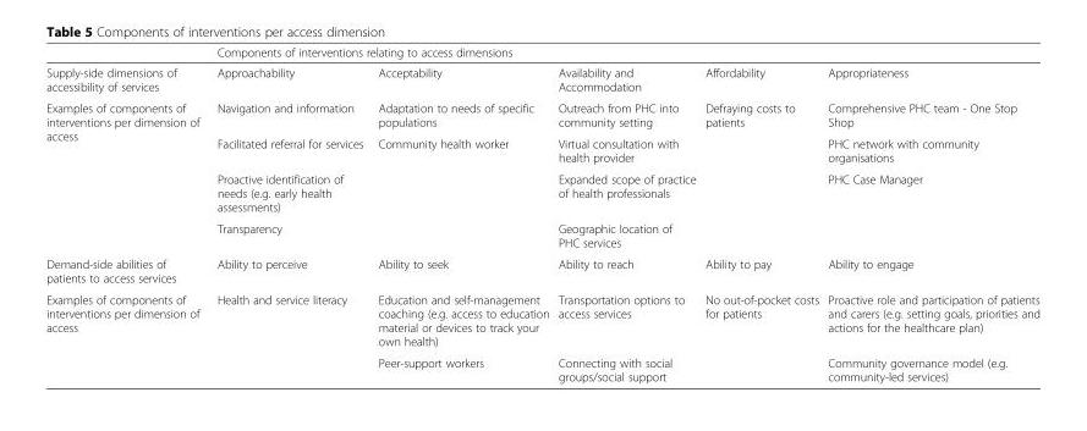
<table><thead><tr><td rowspan="2">Supply-side dimensions of accessibility of services</td><td colspan="5">Components of interventions relating to access dimensions</td></tr><tr><td>Approachability</td><td>Acceptability</td><td>Availability and Accommodation</td><td>Affordability</td><td>Appropriateness</td></tr></thead><tbody><tr><td rowspan="4">Examples of components of interventions per dimension of access</td><td>Navigation and information</td><td>Adaptation to needs of specific populations</td><td>Outreach from PHC into community setting</td><td rowspan="4">Defraying costs to patients</td><td>Comprehensive PHC team - One Stop Shop</td></tr><tr><td>Facilitated referral for services</td><td rowspan="3">Community health worker</td><td>Virtual consultation with health provider</td><td>PHC network with community organisations</td></tr><tr><td>Proactive identification of needs (e.g. early health assessments)</td><td>Expanded scope of practice of health professionals</td><td rowspan="2">PHC Case Manager</td></tr><tr><td>Transparency</td><td>Geographic location of PHC services</td></tr><tr><td>Demand-side abilities of patients to access services</td><td>Ability to perceive</td><td>Ability to seek</td><td>Ability to reach</td><td>Ability to pay</td><td>Ability to engage</td></tr><tr><td rowspan="2">Examples of components of interventions per dimension of access</td><td rowspan="2">Health and service literacy</td><td>Education and self-management coaching (e.g. access to education material or devices to track your own health)</td><td>Transportation options to access services</td><td rowspan="2">No out-of-pocket costs for patients</td><td>Proactive role and participation of patients and carers (e.g. setting goals, priorities and actions for the healthcare plan)</td></tr><tr><td>Peer-support workers</td><td>Connecting with social groups/social support</td><td>Community governance model (e.g. community-led services)</td></tr></tbody></table>